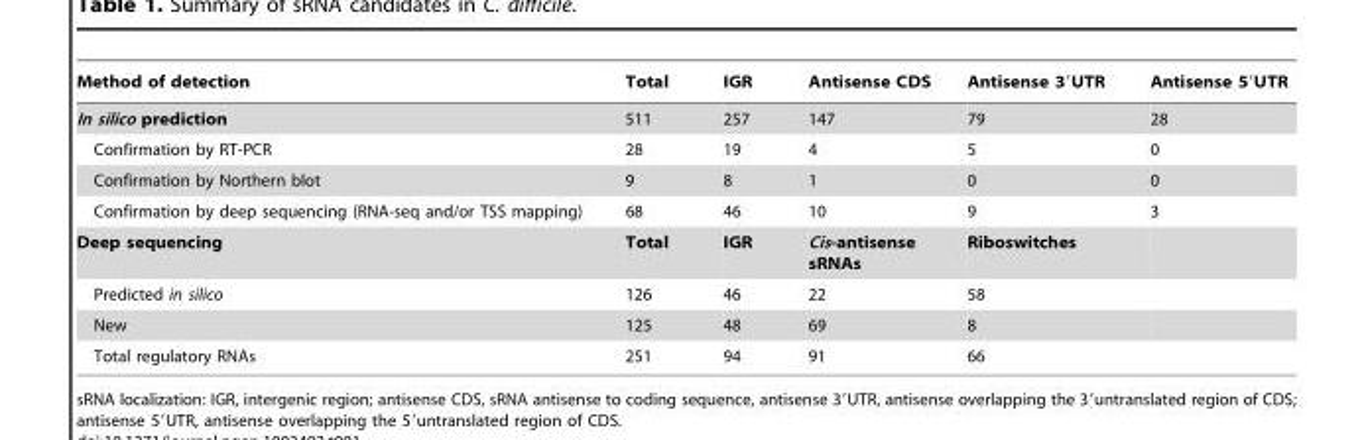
<table><thead><tr><td>Method of detection</td><td>Total</td><td>IGR</td><td>Antisense CDS</td><td>Antisense 3′UTR</td><td>Antisense 5′UTR</td></tr></thead><tbody><tr><td>In silico prediction</td><td>511</td><td>257</td><td>147</td><td>79</td><td>28</td></tr><tr><td>Confirmation by RT-PCR</td><td>28</td><td>19</td><td>4</td><td>5</td><td>0</td></tr><tr><td>Confirmation by Northern blot</td><td>9</td><td>8</td><td>1</td><td>0</td><td>0</td></tr><tr><td>Confirmation by deep sequencing (RNA-seq and/or TSS mapping)</td><td>68</td><td>46</td><td>10</td><td>9</td><td>3</td></tr><tr><td>Deep sequencing</td><td>Total</td><td>IGR</td><td>Cis-antisense sRNAs</td><td>Riboswitches</td><td></td></tr><tr><td>Predicted in silico</td><td>126</td><td>46</td><td>22</td><td>58</td><td></td></tr><tr><td>New</td><td>125</td><td>48</td><td>69</td><td>8</td><td></td></tr><tr><td>Total regulatory RNAs</td><td>251</td><td>94</td><td>91</td><td>66</td><td></td></tr></tbody></table>